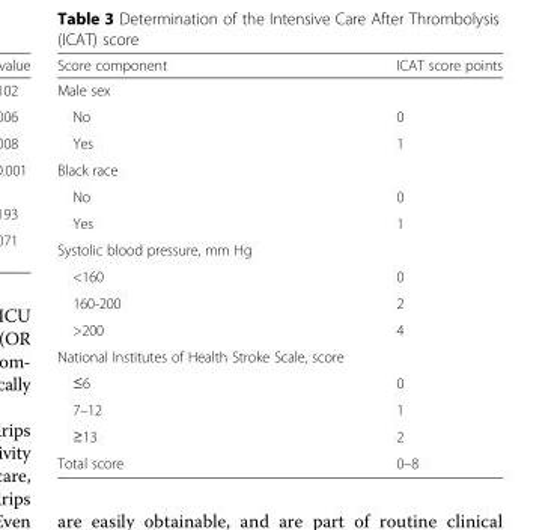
<table><thead><tr><td>Score component</td><td>ICAT score points</td></tr></thead><tbody><tr><td colspan="2">Male sex</td></tr><tr><td>No</td><td>0</td></tr><tr><td>Yes</td><td>1</td></tr><tr><td colspan="2">Black race</td></tr><tr><td>No</td><td>0</td></tr><tr><td>Yes</td><td>1</td></tr><tr><td colspan="2">Systolic blood pressure, mm Hg</td></tr><tr><td>&lt;160</td><td>0</td></tr><tr><td>160-200</td><td>2</td></tr><tr><td>&gt;200</td><td>4</td></tr><tr><td colspan="2">National Institutes of Health Stroke Scale, score</td></tr><tr><td>≤6</td><td>0</td></tr><tr><td>7–12</td><td>1</td></tr><tr><td>≥13</td><td>2</td></tr><tr><td>Total score</td><td>0–8</td></tr></tbody></table>